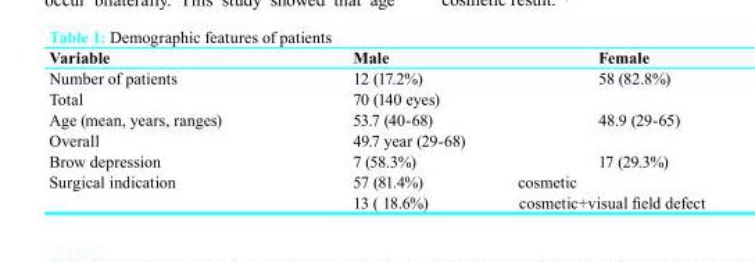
<table><thead><tr><td>Variable</td><td>Male</td><td>Female</td></tr></thead><tbody><tr><td>Number of patients</td><td>12 (17.2%)</td><td>58 (82.8%)</td></tr><tr><td>Total</td><td colspan="2">70 (140 eyes)</td></tr><tr><td>Age (mean, years, ranges)</td><td>53.7 (40-68)</td><td>48.9 (29-65)</td></tr><tr><td>Overall</td><td colspan="2">49.7 year (29-68)</td></tr><tr><td>Brow depression</td><td>7 (58.3%)</td><td>17 (29.3%)</td></tr><tr><td rowspan="2">Surgical indication</td><td colspan="2">57 (81.4%) cosmetic</td></tr><tr><td colspan="2">13 ( 18.6%) cosmetic+visual field defect</td></tr></tbody></table>